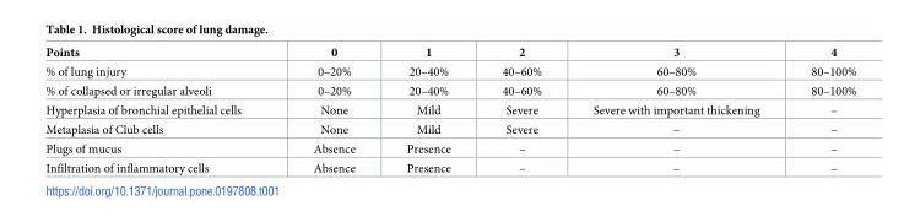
<table><thead><tr><td>Points</td><td>0</td><td>1</td><td>2</td><td>3</td><td>4</td></tr></thead><tbody><tr><td>% of lung injury</td><td>0–20%</td><td>20–40%</td><td>40–60%</td><td>60–80%</td><td>80–100%</td></tr><tr><td>% of collapsed or irregular alveoli</td><td>0–20%</td><td>20–40%</td><td>40–60%</td><td>60–80%</td><td>80–100%</td></tr><tr><td>Hyperplasia of bronchial epithelial cells</td><td>None</td><td>Mild</td><td>Severe</td><td>Severe with important thickening</td><td>–</td></tr><tr><td>Metaplasia of Club cells</td><td>None</td><td>Mild</td><td>Severe</td><td>–</td><td>–</td></tr><tr><td>Plugs of mucus</td><td>Absence</td><td>Presence</td><td>–</td><td>–</td><td>–</td></tr><tr><td>Infiltration of inflammatory cells</td><td>Absence</td><td>Presence</td><td>–</td><td>–</td><td>–</td></tr></tbody></table>